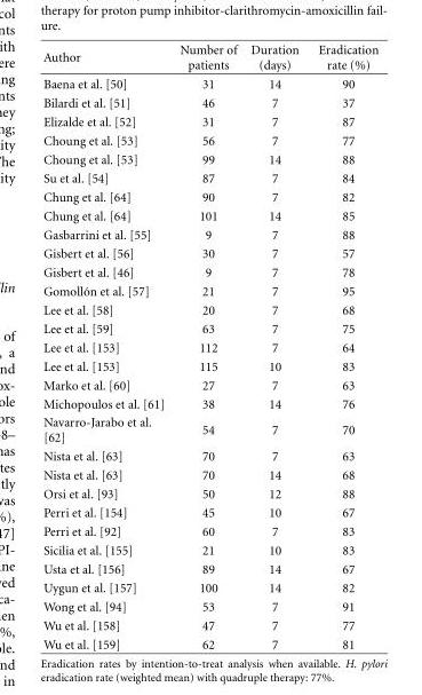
<table><thead><tr><td>Author</td><td>Number of patients</td><td>Duration (days)</td><td>Eradication rate (%)</td></tr></thead><tbody><tr><td>Baena et al. [50]</td><td>31</td><td>14</td><td>90</td></tr><tr><td>Bilardi et al. [51]</td><td>46</td><td>7</td><td>37</td></tr><tr><td>Elizalde et al. [52]</td><td>31</td><td>7</td><td>87</td></tr><tr><td>Choung et al. [53]</td><td>56</td><td>7</td><td>77</td></tr><tr><td>Choung et al. [53]</td><td>99</td><td>14</td><td>88</td></tr><tr><td>Su et al. [54]</td><td>87</td><td>7</td><td>84</td></tr><tr><td>Chung et al. [64]</td><td>90</td><td>7</td><td>82</td></tr><tr><td>Chung et al. [64]</td><td>101</td><td>14</td><td>85</td></tr><tr><td>Gasbarrini et al. [55]</td><td>9</td><td>7</td><td>88</td></tr><tr><td>Gisbert et al. [56]</td><td>30</td><td>7</td><td>57</td></tr><tr><td>Gisbert et al. [46]</td><td>9</td><td>7</td><td>78</td></tr><tr><td>Gomoll´on et al. [57]</td><td>21</td><td>7</td><td>95</td></tr><tr><td>Lee et al. [58]</td><td>20</td><td>7</td><td>68</td></tr><tr><td>Lee et al. [59]</td><td>63</td><td>7</td><td>75</td></tr><tr><td>Lee et al. [153]</td><td>112</td><td>7</td><td>64</td></tr><tr><td>Lee et al. [153]</td><td>115</td><td>10</td><td>83</td></tr><tr><td>Marko et al. [60]</td><td>27</td><td>7</td><td>63</td></tr><tr><td>Michopoulos et al. [61]</td><td>38</td><td>14</td><td>76</td></tr><tr><td>Navarro-Jarabo et al. [62]</td><td>54</td><td>7</td><td>70</td></tr><tr><td>Nista et al. [63]</td><td>70</td><td>7</td><td>63</td></tr><tr><td>Nista et al. [63]</td><td>70</td><td>14</td><td>68</td></tr><tr><td>Orsi et al. [93]</td><td>50</td><td>12</td><td>88</td></tr><tr><td>Perri et al. [154]</td><td>45</td><td>10</td><td>67</td></tr><tr><td>Perri et al. [92]</td><td>60</td><td>7</td><td>83</td></tr><tr><td>Sicilia et al. [155]</td><td>21</td><td>10</td><td>83</td></tr><tr><td>Usta et al. [156]</td><td>89</td><td>14</td><td>67</td></tr><tr><td>Uygun et al. [157]</td><td>100</td><td>14</td><td>82</td></tr><tr><td>Wong et al. [94]</td><td>53</td><td>7</td><td>91</td></tr><tr><td>Wu et al. [158]</td><td>47</td><td>7</td><td>77</td></tr><tr><td>Wu et al. [159]</td><td>62</td><td>7</td><td>81</td></tr></tbody></table>